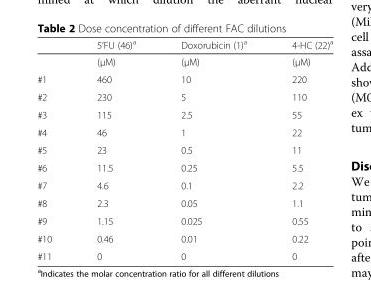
<table><thead><tr><td></td><td>5’FU (46)<sup>a</sup></td><td>Doxorubicin (1)<sup>a</sup></td><td>4-HC (22)<sup>a</sup></td></tr></thead><tbody><tr><td></td><td>(μM)</td><td>(μM)</td><td>(μM)</td></tr><tr><td>#1</td><td>460</td><td>10</td><td>220</td></tr><tr><td>#2</td><td>230</td><td>5</td><td>110</td></tr><tr><td>#3</td><td>115</td><td>2.5</td><td>55</td></tr><tr><td>#4</td><td>46</td><td>1</td><td>22</td></tr><tr><td>#5</td><td>23</td><td>0.5</td><td>11</td></tr><tr><td>#6</td><td>11.5</td><td>0.25</td><td>5.5</td></tr><tr><td>#7</td><td>4.6</td><td>0.1</td><td>2.2</td></tr><tr><td>#8</td><td>2.3</td><td>0.05</td><td>1.1</td></tr><tr><td>#9</td><td>1.15</td><td>0.025</td><td>0.55</td></tr><tr><td>#10</td><td>0.46</td><td>0.01</td><td>0.22</td></tr><tr><td>#11</td><td>0</td><td>0</td><td>0</td></tr></tbody></table>